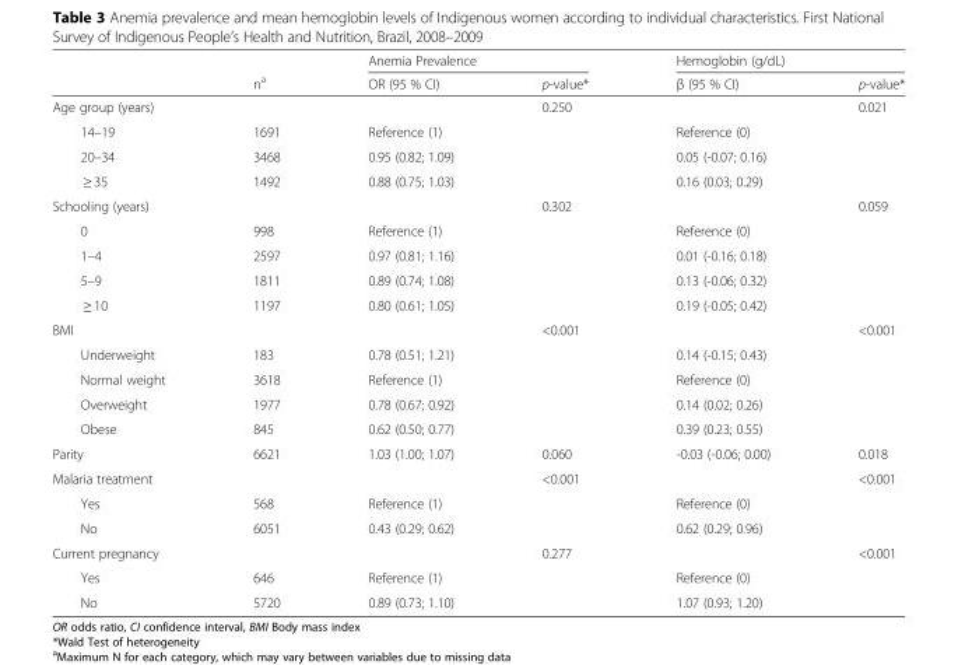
<table><thead><tr><td rowspan="2"></td><td rowspan="2">n<sup>a</sup></td><td colspan="2">Anemia Prevalence</td><td colspan="2">Hemoglobin (g/dL)</td></tr><tr><td>OR (95 % CI)</td><td>p-value*</td><td>β (95 % CI)</td><td>p-value*</td></tr></thead><tbody><tr><td>Age group (years)</td><td></td><td></td><td>0.250</td><td></td><td>0.021</td></tr><tr><td>14–19</td><td>1691</td><td>Reference (1)</td><td></td><td>Reference (0)</td><td></td></tr><tr><td>20–34</td><td>3468</td><td>0.95 (0.82; 1.09)</td><td></td><td>0.05 (-0.07; 0.16)</td><td></td></tr><tr><td>≥ 35</td><td>1492</td><td>0.88 (0.75; 1.03)</td><td></td><td>0.16 (0.03; 0.29)</td><td></td></tr><tr><td>Schooling (years)</td><td></td><td></td><td>0.302</td><td></td><td>0.059</td></tr><tr><td>0</td><td>998</td><td>Reference (1)</td><td></td><td>Reference (0)</td><td></td></tr><tr><td>1–4</td><td>2597</td><td>0.97 (0.81; 1.16)</td><td></td><td>0.01 (-0.16; 0.18)</td><td></td></tr><tr><td>5–9</td><td>1811</td><td>0.89 (0.74; 1.08)</td><td></td><td>0.13 (-0.06; 0.32)</td><td></td></tr><tr><td>≥ 10</td><td>1197</td><td>0.80 (0.61; 1.05)</td><td></td><td>0.19 (-0.05; 0.42)</td><td></td></tr><tr><td>BMI</td><td></td><td></td><td>&lt;0.001</td><td></td><td>&lt;0.001</td></tr><tr><td>Underweight</td><td>183</td><td>0.78 (0.51; 1.21)</td><td></td><td>0.14 (-0.15; 0.43)</td><td></td></tr><tr><td>Normal weight</td><td>3618</td><td>Reference (1)</td><td></td><td>Reference (0)</td><td></td></tr><tr><td>Overweight</td><td>1977</td><td>0.78 (0.67; 0.92)</td><td></td><td>0.14 (0.02; 0.26)</td><td></td></tr><tr><td>Obese</td><td>845</td><td>0.62 (0.50; 0.77)</td><td></td><td>0.39 (0.23; 0.55)</td><td></td></tr><tr><td>Parity</td><td>6621</td><td>1.03 (1.00; 1.07)</td><td>0.060</td><td>-0.03 (-0.06; 0.00)</td><td>0.018</td></tr><tr><td>Malaria treatment</td><td></td><td></td><td>&lt;0.001</td><td></td><td>&lt;0.001</td></tr><tr><td>Yes</td><td>568</td><td>Reference (1)</td><td></td><td>Reference (0)</td><td></td></tr><tr><td>No</td><td>6051</td><td>0.43 (0.29; 0.62)</td><td></td><td>0.62 (0.29; 0.96)</td><td></td></tr><tr><td>Current pregnancy</td><td></td><td></td><td>0.277</td><td></td><td>&lt;0.001</td></tr><tr><td>Yes</td><td>646</td><td>Reference (1)</td><td></td><td>Reference (0)</td><td></td></tr><tr><td>No</td><td>5720</td><td>0.89 (0.73; 1.10)</td><td></td><td>1.07 (0.93; 1.20)</td><td></td></tr></tbody></table>